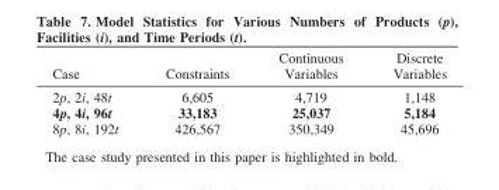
<table><thead><tr><td>Case</td><td>Constraints</td><td>Continuous Variables</td><td>Discrete Variables</td></tr></thead><tbody><tr><td>2p, 2i, 48t</td><td>6,605</td><td>4,719</td><td>1,148</td></tr><tr><td>4p, 4i, 96t</td><td>33,183</td><td>25,037</td><td>5,184</td></tr><tr><td>8p, 8i, 192t</td><td>426,567</td><td>350,349</td><td>45,696</td></tr></tbody></table>